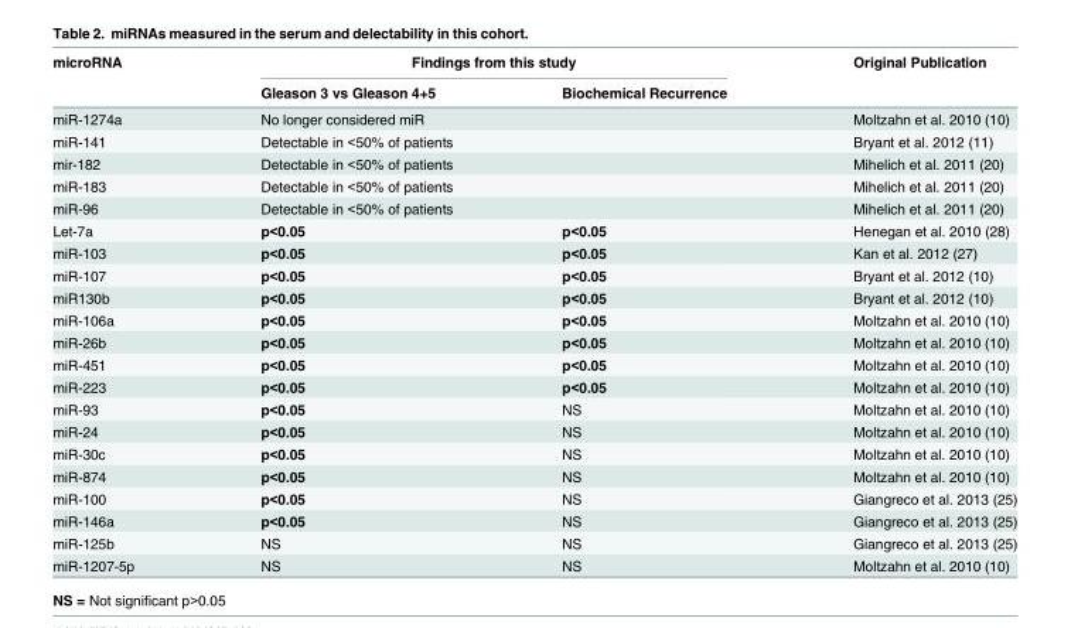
<table><thead><tr><td rowspan="2">microRNA</td><td colspan="2">Findings from this study</td><td rowspan="2">Original Publication</td></tr><tr><td>Gleason 3 vs Gleason 4+5</td><td>Biochemical Recurrence</td></tr></thead><tbody><tr><td>miR-1274a</td><td colspan="2">No longer considered miR</td><td>Moltzahn et al. 2010 (10)</td></tr><tr><td>miR-141</td><td colspan="2">Detectable in &lt;50% of patients</td><td>Bryant et al. 2012 (11)</td></tr><tr><td>mir-182</td><td colspan="2">Detectable in &lt;50% of patients</td><td>Mihelich et al. 2011 (20)</td></tr><tr><td>miR-183</td><td colspan="2">Detectable in &lt;50% of patients</td><td>Mihelich et al. 2011 (20)</td></tr><tr><td>miR-96</td><td colspan="2">Detectable in &lt;50% of patients</td><td>Mihelich et al. 2011 (20)</td></tr><tr><td>Let-7a</td><td>p&lt;0.05</td><td>p&lt;0.05</td><td>Henegan et al. 2010 (28)</td></tr><tr><td>miR-103</td><td>p&lt;0.05</td><td>p&lt;0.05</td><td>Kan et al. 2012 (27)</td></tr><tr><td>miR-107</td><td>p&lt;0.05</td><td>p&lt;0.05</td><td>Bryant et al. 2012 (10)</td></tr><tr><td>miR130b</td><td>p&lt;0.05</td><td>p&lt;0.05</td><td>Bryant et al. 2012 (10)</td></tr><tr><td>miR-106a</td><td>p&lt;0.05</td><td>p&lt;0.05</td><td>Moltzahn et al. 2010 (10)</td></tr><tr><td>miR-26b</td><td>p&lt;0.05</td><td>p&lt;0.05</td><td>Moltzahn et al. 2010 (10)</td></tr><tr><td>miR-451</td><td>p&lt;0.05</td><td>p&lt;0.05</td><td>Moltzahn et al. 2010 (10)</td></tr><tr><td>miR-223</td><td>p&lt;0.05</td><td>p&lt;0.05</td><td>Moltzahn et al. 2010 (10)</td></tr><tr><td>miR-93</td><td>p&lt;0.05</td><td>NS</td><td>Moltzahn et al. 2010 (10)</td></tr><tr><td>miR-24</td><td>p&lt;0.05</td><td>NS</td><td>Moltzahn et al. 2010 (10)</td></tr><tr><td>miR-30c</td><td>p&lt;0.05</td><td>NS</td><td>Moltzahn et al. 2010 (10)</td></tr><tr><td>miR-874</td><td>p&lt;0.05</td><td>NS</td><td>Moltzahn et al. 2010 (10)</td></tr><tr><td>miR-100</td><td>p&lt;0.05</td><td>NS</td><td>Giangreco et al. 2013 (25)</td></tr><tr><td>miR-146a</td><td>p&lt;0.05</td><td>NS</td><td>Giangreco et al. 2013 (25)</td></tr><tr><td>miR-125b</td><td>NS</td><td>NS</td><td>Giangreco et al. 2013 (25)</td></tr><tr><td>miR-1207-5p</td><td>NS</td><td>NS</td><td>Moltzahn et al. 2010 (10)</td></tr></tbody></table>